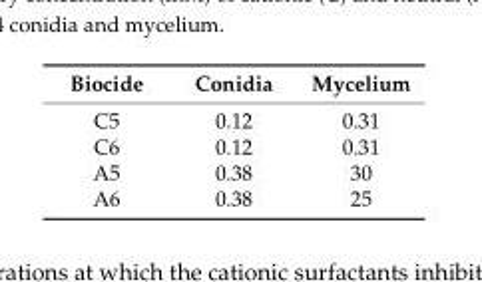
<table><thead><tr><td>Biocide</td><td>Conidia</td><td>Mycelium</td></tr></thead><tbody><tr><td>C5</td><td>0.12</td><td>0.31</td></tr><tr><td>C6</td><td>0.12</td><td>0.31</td></tr><tr><td>A5</td><td>0.38</td><td>30</td></tr><tr><td>A6</td><td>0.38</td><td>25</td></tr></tbody></table>